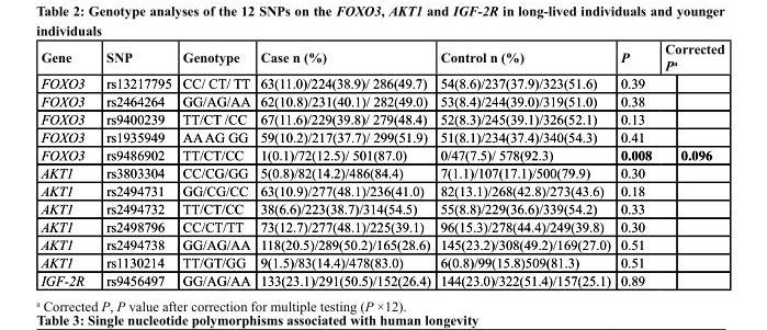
<table><thead><tr><td>Gene</td><td>sNP</td><td>Genotype</td><td>case n (%)</td><td>control n (%)</td><td>P</td><td>corrected P<sup>a</sup></td></tr></thead><tbody><tr><td>FOXO3</td><td>rs13217795</td><td>CC/ CT/ TT</td><td>63(11.0)/224(38.9)/ 286(49.7)</td><td>54(8.6)/237(37.9)/323(51.6)</td><td>0.39</td><td></td></tr><tr><td>FOXO3</td><td>rs2464264</td><td>GG/AG/AA</td><td>62(10.8)/231(40.1)/ 282(49.0)</td><td>53(8.4)/244(39.0)/319(51.0)</td><td>0.38</td><td></td></tr><tr><td>FOXO3</td><td>rs9400239</td><td>TT/CT /CC</td><td>67(11.6)/229(39.8)/ 279(48.4)</td><td>52(8.3)/245(39.1)/326(52.1)</td><td>0.13</td><td></td></tr><tr><td>FOXO3</td><td>rs1935949</td><td>AA AG GG</td><td>59(10.2)/217(37.7)/ 299(51.9)</td><td>51(8.1)/234(37.4)/340(54.3)</td><td>0.41</td><td></td></tr><tr><td>FOXO3</td><td>rs9486902</td><td>TT/CT/CC</td><td>1(0.1)/72(12.5)/ 501(87.0)</td><td>0/47(7.5)/ 578(92.3)</td><td>0.008</td><td>0.096</td></tr><tr><td>AKT1</td><td>rs3803304</td><td>CC/CG/GG</td><td>5(0.8)/82(14.2)/486(84.4)</td><td>7(1.1)/107(17.1)/500(79.9)</td><td>0.30</td><td></td></tr><tr><td>AKT1</td><td>rs2494731</td><td>GG/CG/CC</td><td>63(10.9)/277(48.1)/236(41.0)</td><td>82(13.1)/268(42.8)/273(43.6)</td><td>0.18</td><td></td></tr><tr><td>AKT1</td><td>rs2494732</td><td>TT/CT/CC</td><td>38(6.6)/223(38.7)/314(54.5)</td><td>55(8.8)/229(36.6)/339(54.2)</td><td>0.33</td><td></td></tr><tr><td>AKT1</td><td>rs2498796</td><td>CC/CT/TT</td><td>73(12.7)/277(48.1)/225(39.1)</td><td>96(15.3)/278(44.4)/249(39.8)</td><td>0.30</td><td></td></tr><tr><td>AKT1</td><td>rs2494738</td><td>GG/AG/AA</td><td>118(20.5)/289(50.2)/165(28.6)</td><td>145(23.2)/308(49.2)/169(27.0)</td><td>0.51</td><td></td></tr><tr><td>AKT1</td><td>rs1130214</td><td>TT/GT/GG</td><td>9(1.5)/83(14.4)/478(83.0)</td><td>6(0.8)/99(15.8)509(81.3)</td><td>0.51</td><td></td></tr><tr><td>IGF-2R</td><td>rs9456497</td><td>GG/AG/AA</td><td>133(23.1)/291(50.5)/152(26.4)</td><td>144(23.0)/322(51.4)/157(25.1)</td><td>0.89</td><td></td></tr></tbody></table>